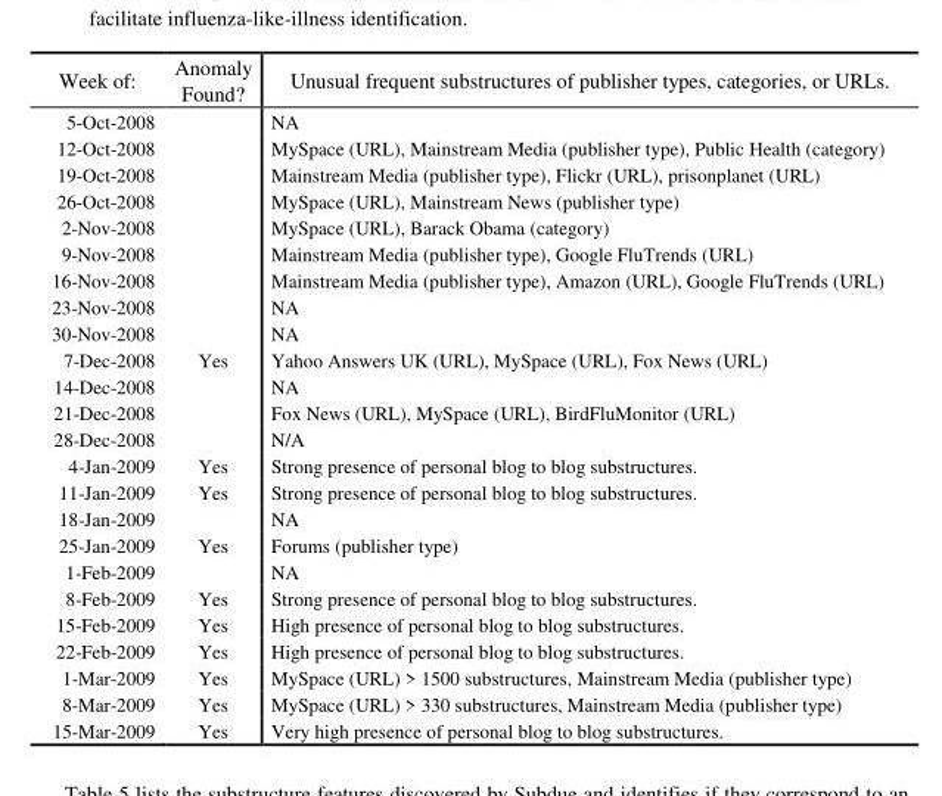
<table><thead><tr><td>Week of:</td><td>Anomaly Found?</td><td>Unusual frequent substructures of publisher types, categories, or URLs.</td></tr></thead><tbody><tr><td>5-Oct-2008</td><td></td><td>NA</td></tr><tr><td>12-Oct-2008</td><td></td><td>MySpace (URL), Mainstream Media (publisher type), Public Health (category)</td></tr><tr><td>19-Oct-2008</td><td></td><td>Mainstream Media (publisher type), Flickr (URL), prisonplanet (URL)</td></tr><tr><td>26-Oct-2008</td><td></td><td>MySpace (URL), Mainstream News (publisher type)</td></tr><tr><td>2-Nov-2008</td><td></td><td>MySpace (URL), Barack Obama (category)</td></tr><tr><td>9-Nov-2008</td><td></td><td>Mainstream Media (publisher type), Google FluTrends (URL)</td></tr><tr><td>16-Nov-2008</td><td></td><td>Mainstream Media (publisher type), Amazon (URL), Google FluTrends (URL)</td></tr><tr><td>23-Nov-2008</td><td></td><td>NA</td></tr><tr><td>30-Nov-2008</td><td></td><td>NA</td></tr><tr><td>7-Dec-2008</td><td>Yes</td><td>Yahoo Answers UK (URL), MySpace (URL), Fox News (URL)</td></tr><tr><td>14-Dec-2008</td><td></td><td>NA</td></tr><tr><td>21-Dec-2008</td><td></td><td>Fox News (URL), MySpace (URL), BirdFluMonitor (URL)</td></tr><tr><td>28-Dec-2008</td><td></td><td>N/A</td></tr><tr><td>4-Jan-2009</td><td>Yes</td><td>Strong presence of personal blog to blog substructures.</td></tr><tr><td>11-Jan-2009</td><td>Yes</td><td>Strong presence of personal blog to blog substructures.</td></tr><tr><td>18-Jan-2009</td><td></td><td>NA</td></tr><tr><td>25-Jan-2009</td><td>Yes</td><td>Forums (publisher type)</td></tr><tr><td>1-Feb-2009</td><td></td><td>NA</td></tr><tr><td>8-Feb-2009</td><td>Yes</td><td>Strong presence of personal blog to blog substructures.</td></tr><tr><td>15-Feb-2009</td><td>Yes</td><td>High presence of personal blog to blog substructures.</td></tr><tr><td>22-Feb-2009</td><td>Yes</td><td>High presence of personal blog to blog substructures.</td></tr><tr><td>1-Mar-2009</td><td>Yes</td><td>MySpace (URL) &gt; 1500 substructures, Mainstream Media (publisher type)</td></tr><tr><td>8-Mar-2009</td><td>Yes</td><td>MySpace (URL) &gt; 330 substructures, Mainstream Media (publisher type)</td></tr><tr><td>15-Mar-2009</td><td>Yes</td><td>Very high presence of personal blog to blog substructures.</td></tr></tbody></table>